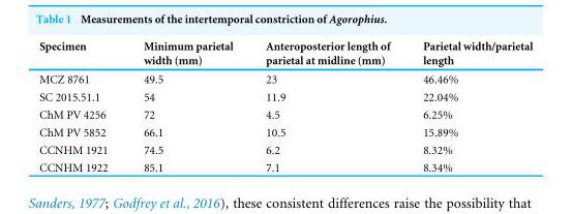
<table><thead><tr><td>Specimen</td><td>Minimum parietal width (mm)</td><td>Anteroposterior length of parietal at midline (mm)</td><td>Parietal width/parietal length</td></tr></thead><tbody><tr><td>MCZ 8761</td><td>49.5</td><td>23</td><td>46.46%</td></tr><tr><td>SC 2015.51.1</td><td>54</td><td>11.9</td><td>22.04%</td></tr><tr><td>ChM PV 4256</td><td>72</td><td>4.5</td><td>6.25%</td></tr><tr><td>ChM PV 5852</td><td>66.1</td><td>10.5</td><td>15.89%</td></tr><tr><td>CCNHM 1921</td><td>74.5</td><td>6.2</td><td>8.32%</td></tr><tr><td>CCNHM 1922</td><td>85.1</td><td>7.1</td><td>8.34%</td></tr></tbody></table>